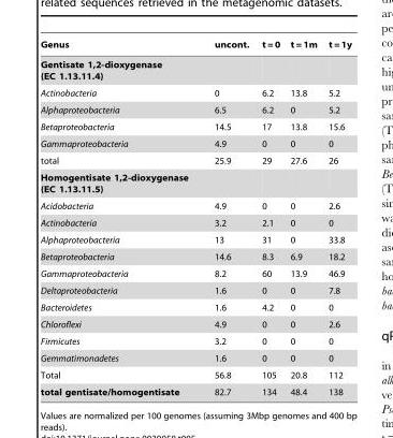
<table><thead><tr><td>Genus</td><td>uncont.</td><td>t = 0</td><td>t = 1m</td><td>t = 1y</td></tr></thead><tbody><tr><td colspan="5">Gentisate 1,2-dioxygenase (EC 1.13.11.4)</td></tr><tr><td>Actinobacteria</td><td>0</td><td>6.2</td><td>13.8</td><td>5.2</td></tr><tr><td>Alphaproteobacteria</td><td>6.5</td><td>6.2</td><td>0</td><td>5.2</td></tr><tr><td>Betaproteobacteria</td><td>14.5</td><td>17</td><td>13.8</td><td>15.6</td></tr><tr><td>Gammaproteobacteria</td><td>4.9</td><td>0</td><td>0</td><td>0</td></tr><tr><td>total</td><td>25.9</td><td>29</td><td>27.6</td><td>26</td></tr><tr><td colspan="5">Homogentisate 1,2-dioxygenase (EC 1.13.11.5)</td></tr><tr><td>Acidobacteria</td><td>4.9</td><td>0</td><td>0</td><td>2.6</td></tr><tr><td>Actinobacteria</td><td>3.2</td><td>2.1</td><td>0</td><td>0</td></tr><tr><td>Alphaproteobacteria</td><td>13</td><td>31</td><td>0</td><td>33.8</td></tr><tr><td>Betaproteobacteria</td><td>14.6</td><td>8.3</td><td>6.9</td><td>18.2</td></tr><tr><td>Gammaproteobacteria</td><td>8.2</td><td>60</td><td>13.9</td><td>46.9</td></tr><tr><td>Deltaproteobacteria</td><td>1.6</td><td>0</td><td>0</td><td>7.8</td></tr><tr><td>Bacteroidetes</td><td>1.6</td><td>4.2</td><td>0</td><td>0</td></tr><tr><td>Chloroflexi</td><td>4.9</td><td>0</td><td>0</td><td>2.6</td></tr><tr><td>Firmicutes</td><td>3.2</td><td>0</td><td>0</td><td>0</td></tr><tr><td>Gemmatimonadetes</td><td>1.6</td><td>0</td><td>0</td><td>0</td></tr><tr><td>Total</td><td>56.8</td><td>105</td><td>20.8</td><td>112</td></tr><tr><td>total gentisate/homogentisate</td><td>82.7</td><td>134</td><td>48.4</td><td>138</td></tr></tbody></table>